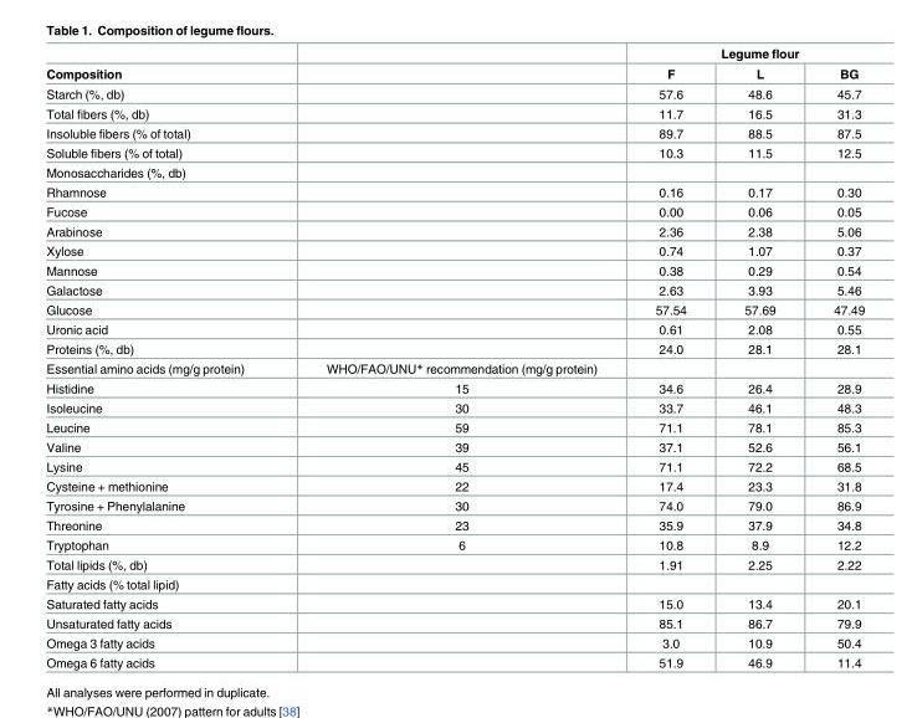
<table><thead><tr><td rowspan="2">Composition</td><td rowspan="2"></td><td colspan="3">Legume flour</td></tr><tr><td>F</td><td>L</td><td>BG</td></tr></thead><tbody><tr><td>Starch (%, db)</td><td></td><td>57.6</td><td>48.6</td><td>45.7</td></tr><tr><td>Total fibers (%, db)</td><td></td><td>11.7</td><td>16.5</td><td>31.3</td></tr><tr><td>Insoluble fibers (% of total)</td><td></td><td>89.7</td><td>88.5</td><td>87.5</td></tr><tr><td>Soluble fibers (% of total)</td><td></td><td>10.3</td><td>11.5</td><td>12.5</td></tr><tr><td colspan="5">Monosaccharides (%, db)</td></tr><tr><td>Rhamnose</td><td></td><td>0.16</td><td>0.17</td><td>0.30</td></tr><tr><td>Fucose</td><td></td><td>0.00</td><td>0.06</td><td>0.05</td></tr><tr><td>Arabinose</td><td></td><td>2.36</td><td>2.38</td><td>5.06</td></tr><tr><td>Xylose</td><td></td><td>0.74</td><td>1.07</td><td>0.37</td></tr><tr><td>Mannose</td><td></td><td>0.38</td><td>0.29</td><td>0.54</td></tr><tr><td>Galactose</td><td></td><td>2.63</td><td>3.93</td><td>5.46</td></tr><tr><td>Glucose</td><td></td><td>57.54</td><td>57.69</td><td>47.49</td></tr><tr><td>Uronic acid</td><td></td><td>0.61</td><td>2.08</td><td>0.55</td></tr><tr><td>Proteins (%, db)</td><td></td><td>24.0</td><td>28.1</td><td>28.1</td></tr><tr><td>Essential amino acids (mg/g protein)</td><td>WHO/FAO/UNU* recommendation (mg/g protein)</td><td></td><td></td><td></td></tr><tr><td>Histidine</td><td>15</td><td>34.6</td><td>26.4</td><td>28.9</td></tr><tr><td>Isoleucine</td><td>30</td><td>33.7</td><td>46.1</td><td>48.3</td></tr><tr><td>Leucine</td><td>59</td><td>71.1</td><td>78.1</td><td>85.3</td></tr><tr><td>Valine</td><td>39</td><td>37.1</td><td>52.6</td><td>56.1</td></tr><tr><td>Lysine</td><td>45</td><td>71.1</td><td>72.2</td><td>68.5</td></tr><tr><td>Cysteine + methionine</td><td>22</td><td>17.4</td><td>23.3</td><td>31.8</td></tr><tr><td>Tyrosine + Phenylalanine</td><td>30</td><td>74.0</td><td>79.0</td><td>86.9</td></tr><tr><td>Threonine</td><td>23</td><td>35.9</td><td>37.9</td><td>34.8</td></tr><tr><td>Tryptophan</td><td>6</td><td>10.8</td><td>8.9</td><td>12.2</td></tr><tr><td>Total lipids (%, db)</td><td></td><td>1.91</td><td>2.25</td><td>2.22</td></tr><tr><td colspan="5">Fatty acids (% total lipid)</td></tr><tr><td>Saturated fatty acids</td><td></td><td>15.0</td><td>13.4</td><td>20.1</td></tr><tr><td>Unsaturated fatty acids</td><td></td><td>85.1</td><td>86.7</td><td>79.9</td></tr><tr><td>Omega 3 fatty acids</td><td></td><td>3.0</td><td>10.9</td><td>50.4</td></tr><tr><td>Omega 6 fatty acids</td><td></td><td>51.9</td><td>46.9</td><td>11.4</td></tr></tbody></table>